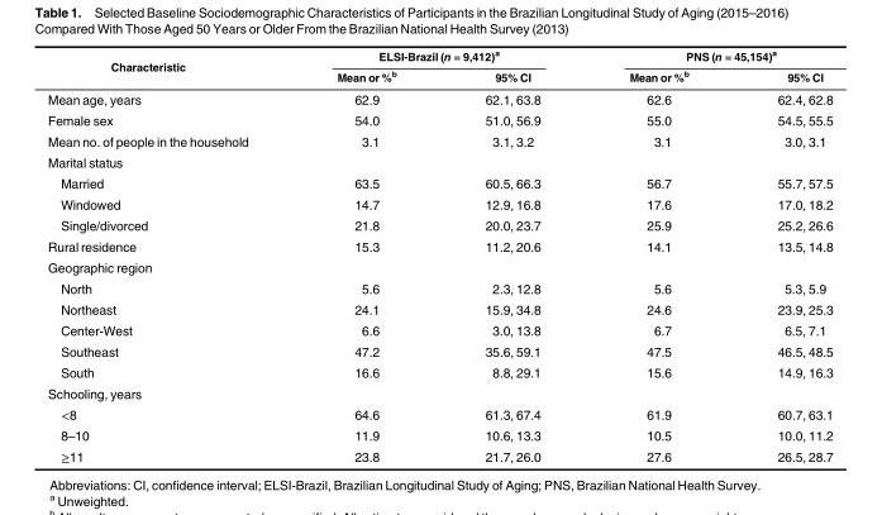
<table><thead><tr><td rowspan="2">Characteristic</td><td colspan="2">ELSI-Brazil (n = 9,412)<sup>a</sup></td><td colspan="2">PNS (n = 45,154)<sup>a</sup></td></tr><tr><td>Mean or %<sup>b</sup></td><td>95% CI</td><td>Mean or %<sup>b</sup></td><td>95% CI</td></tr></thead><tbody><tr><td>Mean age, years</td><td>62.9</td><td>62.1, 63.8</td><td>62.6</td><td>62.4, 62.8</td></tr><tr><td>Female sex</td><td>54.0</td><td>51.0, 56.9</td><td>55.0</td><td>54.5, 55.5</td></tr><tr><td>Mean no. of people in the household</td><td>3.1</td><td>3.1, 3.2</td><td>3.1</td><td>3.0, 3.1</td></tr><tr><td colspan="5">Marital status</td></tr><tr><td>Married</td><td>63.5</td><td>60.5, 66.3</td><td>56.7</td><td>55.7, 57.5</td></tr><tr><td>Windowed</td><td>14.7</td><td>12.9, 16.8</td><td>17.6</td><td>17.0, 18.2</td></tr><tr><td>Single/divorced</td><td>21.8</td><td>20.0, 23.7</td><td>25.9</td><td>25.2, 26.6</td></tr><tr><td>Rural residence</td><td>15.3</td><td>11.2, 20.6</td><td>14.1</td><td>13.5, 14.8</td></tr><tr><td colspan="5">Geographic region</td></tr><tr><td>North</td><td>5.6</td><td>2.3, 12.8</td><td>5.6</td><td>5.3, 5.9</td></tr><tr><td>Northeast</td><td>24.1</td><td>15.9, 34.8</td><td>24.6</td><td>23.9, 25.3</td></tr><tr><td>Center-West</td><td>6.6</td><td>3.0, 13.8</td><td>6.7</td><td>6.5, 7.1</td></tr><tr><td>Southeast</td><td>47.2</td><td>35.6, 59.1</td><td>47.5</td><td>46.5, 48.5</td></tr><tr><td>South</td><td>16.6</td><td>8.8, 29.1</td><td>15.6</td><td>14.9, 16.3</td></tr><tr><td colspan="5">Schooling, years</td></tr><tr><td>&lt;8</td><td>64.6</td><td>61.3, 67.4</td><td>61.9</td><td>60.7, 63.1</td></tr><tr><td>8–10</td><td>11.9</td><td>10.6, 13.3</td><td>10.5</td><td>10.0, 11.2</td></tr><tr><td>≥11</td><td>23.8</td><td>21.7, 26.0</td><td>27.6</td><td>26.5, 28.7</td></tr></tbody></table>